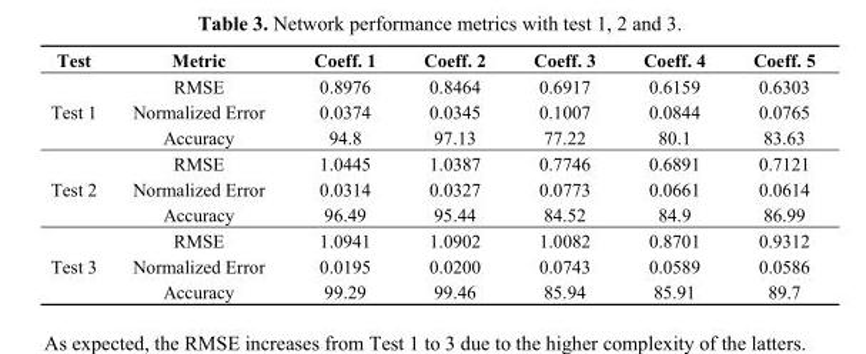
<table><thead><tr><td>Test</td><td>Metric</td><td>Coeff. 1</td><td>Coeff. 2</td><td>Coeff. 3</td><td>Coeff. 4</td><td>Coeff. 5</td></tr></thead><tbody><tr><td rowspan="3">Test 1</td><td>RMSE</td><td>0.8976</td><td>0.8464</td><td>0.6917</td><td>0.6159</td><td>0.6303</td></tr><tr><td>Normalized Error</td><td>0.0374</td><td>0.0345</td><td>0.1007</td><td>0.0844</td><td>0.0765</td></tr><tr><td>Accuracy</td><td>94.8</td><td>97.13</td><td>77.22</td><td>80.1</td><td>83.63</td></tr><tr><td rowspan="3">Test 2</td><td>RMSE</td><td>1.0445</td><td>1.0387</td><td>0.7746</td><td>0.6891</td><td>0.7121</td></tr><tr><td>Normalized Error</td><td>0.0314</td><td>0.0327</td><td>0.0773</td><td>0.0661</td><td>0.0614</td></tr><tr><td>Accuracy</td><td>96.49</td><td>95.44</td><td>84.52</td><td>84.9</td><td>86.99</td></tr><tr><td rowspan="3">Test 3</td><td>RMSE</td><td>1.0941</td><td>1.0902</td><td>1.0082</td><td>0.8701</td><td>0.9312</td></tr><tr><td>Normalized Error</td><td>0.0195</td><td>0.0200</td><td>0.0743</td><td>0.0589</td><td>0.0586</td></tr><tr><td>Accuracy</td><td>99.29</td><td>99.46</td><td>85.94</td><td>85.91</td><td>89.7</td></tr></tbody></table>